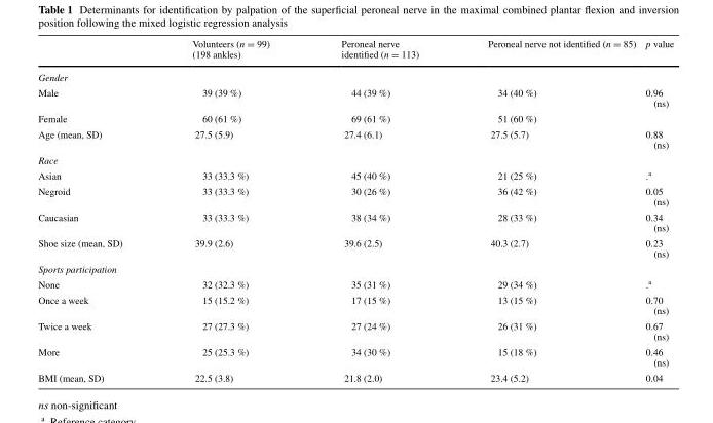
<table><thead><tr><td></td><td>Volunteers (n = 99) (198 ankles)</td><td>Peroneal nerve identified (n = 113)</td><td>Peroneal nerve not identified (n = 85)</td><td>p value</td></tr></thead><tbody><tr><td colspan="5">Gender</td></tr><tr><td>Male</td><td>39 (39 %)</td><td>44 (39 %)</td><td>34 (40 %)</td><td>0.96 (ns)</td></tr><tr><td>Female</td><td>60 (61 %)</td><td>69 (61 %)</td><td>51 (60 %)</td><td></td></tr><tr><td>Age (mean, SD)</td><td>27.5 (5.9)</td><td>27.4 (6.1)</td><td>27.5 (5.7)</td><td>0.88 (ns)</td></tr><tr><td colspan="5">Race</td></tr><tr><td>Asian</td><td>33 (33.3 %)</td><td>45 (40 %)</td><td>21 (25 %)</td><td>.<sup>a</sup></td></tr><tr><td>Negroid</td><td>33 (33.3 %)</td><td>30 (26 %)</td><td>36 (42 %)</td><td>0.05 (ns)</td></tr><tr><td>Caucasian</td><td>33 (33.3 %)</td><td>38 (34 %)</td><td>28 (33 %)</td><td>0.34 (ns)</td></tr><tr><td>Shoe size (mean, SD)</td><td>39.9 (2.6)</td><td>39.6 (2.5)</td><td>40.3 (2.7)</td><td>0.23 (ns)</td></tr><tr><td colspan="5">Sports participation</td></tr><tr><td>None</td><td>32 (32.3 %)</td><td>35 (31 %)</td><td>29 (34 %)</td><td>.<sup>a</sup></td></tr><tr><td>Once a week</td><td>15 (15.2 %)</td><td>17 (15 %)</td><td>13 (15 %)</td><td>0.70 (ns)</td></tr><tr><td>Twice a week</td><td>27 (27.3 %)</td><td>27 (24 %)</td><td>26 (31 %)</td><td>0.67 (ns)</td></tr><tr><td>More</td><td>25 (25.3 %)</td><td>34 (30 %)</td><td>15 (18 %)</td><td>0.46 (ns)</td></tr><tr><td>BMI (mean, SD)</td><td>22.5 (3.8)</td><td>21.8 (2.0)</td><td>23.4 (5.2)</td><td>0.04</td></tr></tbody></table>